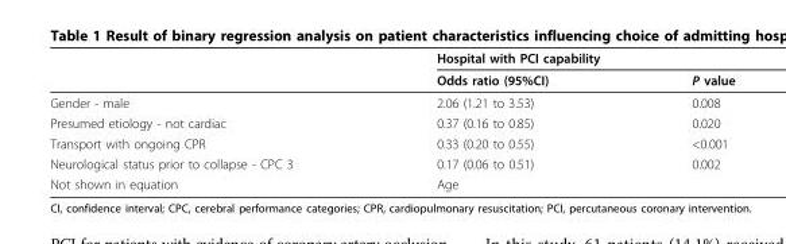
<table><thead><tr><td rowspan="2"></td><td colspan="2">Hospital with PCI capability</td></tr><tr><td>Odds ratio (95%CI)</td><td>P value</td></tr></thead><tbody><tr><td>Gender - male</td><td>2.06 (1.21 to 3.53)</td><td>0.008</td></tr><tr><td>Presumed etiology - not cardiac</td><td>0.37 (0.16 to 0.85)</td><td>0.020</td></tr><tr><td>Transport with ongoing CPR</td><td>0.33 (0.20 to 0.55)</td><td>&lt;0.001</td></tr><tr><td>Neurological status prior to collapse - CPC 3</td><td>0.17 (0.06 to 0.51)</td><td>0.002</td></tr><tr><td>Not shown in equation</td><td>Age</td><td></td></tr></tbody></table>